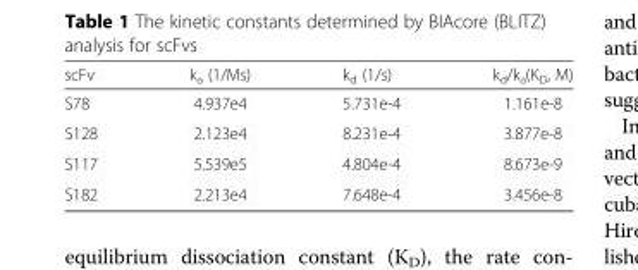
<table><thead><tr><td>scFv</td><td>k<sub>a</sub> (1/Ms)</td><td>k<sub>d</sub> (1/s)</td><td>k<sub>d</sub>/k<sub>a</sub>(K<sub>D</sub>, M)</td></tr></thead><tbody><tr><td>S78</td><td>4.937e4</td><td>5.731e-4</td><td>1.161e-8</td></tr><tr><td>S128</td><td>2.123e4</td><td>8.231e-4</td><td>3.877e-8</td></tr><tr><td>S117</td><td>5.539e5</td><td>4.804e-4</td><td>8.673e-9</td></tr><tr><td>S182</td><td>2.213e4</td><td>7.648e-4</td><td>3.456e-8</td></tr></tbody></table>